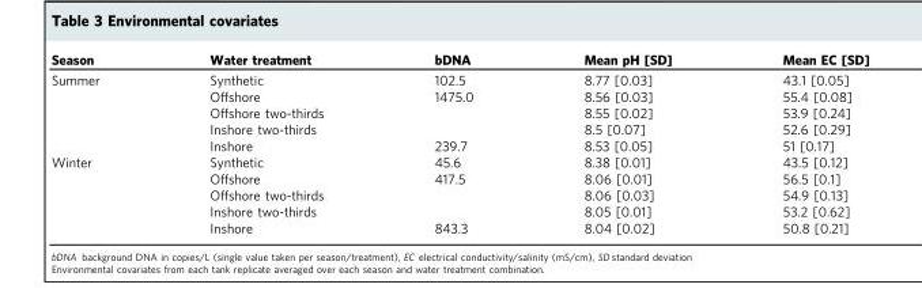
<table><thead><tr><td>Season</td><td>Water treatment</td><td>bDNA</td><td>Mean pH [SD]</td><td>Mean EC [SD]</td></tr></thead><tbody><tr><td rowspan="5">Summer</td><td>Synthetic</td><td>102.5</td><td>8.77 [0.03]</td><td>43.1 [0.05]</td></tr><tr><td>Offshore</td><td>1475.0</td><td>8.56 [0.03]</td><td>55.4 [0.08]</td></tr><tr><td>Offshore two-thirds</td><td></td><td>8.55 [0.02]</td><td>53.9 [0.24]</td></tr><tr><td>Inshore two-thirds</td><td></td><td>8.5 [0.07]</td><td>52.6 [0.29]</td></tr><tr><td>Inshore</td><td>239.7</td><td>8.53 [0.05]</td><td>51 [0.17]</td></tr><tr><td rowspan="5">Winter</td><td>Synthetic</td><td>45.6</td><td>8.38 [0.01]</td><td>43.5 [0.12]</td></tr><tr><td>Offshore</td><td>417.5</td><td>8.06 [0.01]</td><td>56.5 [0.1]</td></tr><tr><td>Offshore two-thirds</td><td></td><td>8.06 [0.03]</td><td>54.9 [0.13]</td></tr><tr><td>Inshore two-thirds</td><td></td><td>8.05 [0.01]</td><td>53.2 [0.62]</td></tr><tr><td>Inshore</td><td>843.3</td><td>8.04 [0.02]</td><td>50.8 [0.21]</td></tr></tbody></table>